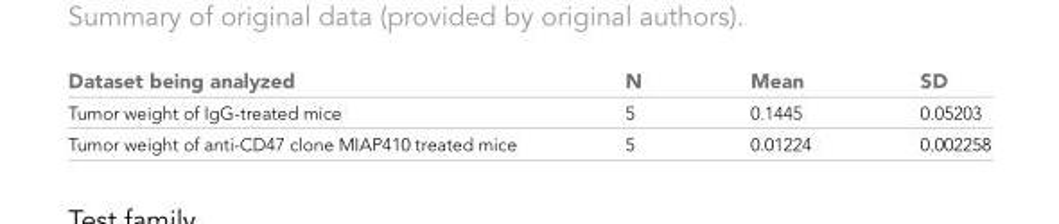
<table><thead><tr><td>Dataset being analyzed</td><td>N</td><td>Mean</td><td>SD</td></tr></thead><tbody><tr><td>Tumor weight of IgG-treated mice</td><td>5</td><td>0.1445</td><td>0.05203</td></tr><tr><td>Tumor weight of anti-CD47 clone MIAP410 treated mice</td><td>5</td><td>0.01224</td><td>0.002258</td></tr></tbody></table>